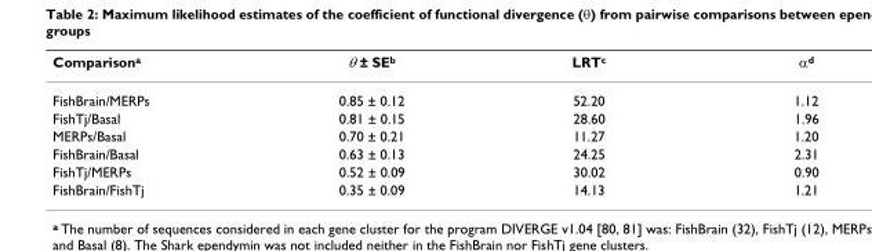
<table><thead><tr><td>Comparison<sup>a</sup></td><td>θ ± SE<sup>b</sup></td><td>LRT<sup>c</sup></td><td>α<sup>d</sup></td></tr></thead><tbody><tr><td>FishBrain/MERPs</td><td>0.85 ± 0.12</td><td>52.20</td><td>1.12</td></tr><tr><td>FishTj/Basal</td><td>0.81 ± 0.15</td><td>28.60</td><td>1.96</td></tr><tr><td>MERPs/Basal</td><td>0.70 ± 0.21</td><td>11.27</td><td>1.20</td></tr><tr><td>FishBrain/Basal</td><td>0.63 ± 0.13</td><td>24.25</td><td>2.31</td></tr><tr><td>FishTj/MERPs</td><td>0.52 ± 0.09</td><td>30.02</td><td>0.90</td></tr><tr><td>FishBrain/FishTj</td><td>0.35 ± 0.09</td><td>14.13</td><td>1.21</td></tr></tbody></table>